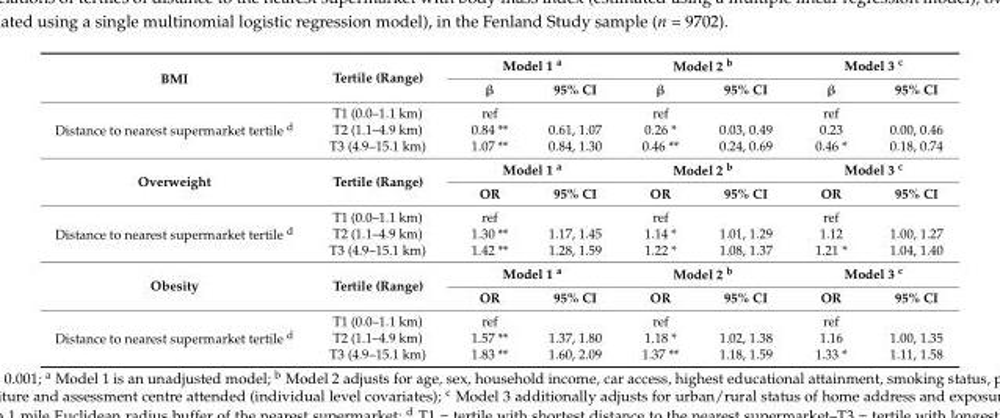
<table><tbody><tr><td rowspan="2">BMI</td><td rowspan="2">Tertile (Range)</td><td colspan="2">Model 1 <sup>a</sup></td><td colspan="2">Model 2 <sup>b</sup></td><td colspan="2">Model 3 <sup>c</sup></td></tr><tr><td>β</td><td>95% CI</td><td>β</td><td>95% CI</td><td>β</td><td>95% CI</td></tr><tr><td rowspan="3">Distance to nearest supermarket tertile <sup>d</sup></td><td>T1 (0.0–1.1 km)</td><td>ref</td><td></td><td>ref</td><td></td><td>ref</td><td></td></tr><tr><td>T2 (1.1–4.9 km)</td><td>0.84 **</td><td>0.61, 1.07</td><td>0.26 *</td><td>0.03, 0.49</td><td>0.23</td><td>0.00, 0.46</td></tr><tr><td>T3 (4.9–15.1 km)</td><td>1.07 **</td><td>0.84, 1.30</td><td>0.46 **</td><td>0.24, 0.69</td><td>0.46 *</td><td>0.18, 0.74</td></tr><tr><td rowspan="2">Overweight</td><td rowspan="2">Tertile (Range)</td><td colspan="2">Model 1 <sup>a</sup></td><td colspan="2">Model 2 <sup>b</sup></td><td colspan="2">Model 3 <sup>c</sup></td></tr><tr><td>OR</td><td>95% CI</td><td>OR</td><td>95% CI</td><td>OR</td><td>95% CI</td></tr><tr><td rowspan="3">Distance to nearest supermarket tertile <sup>d</sup></td><td>T1 (0.0–1.1 km)</td><td>ref</td><td></td><td>ref</td><td></td><td>ref</td><td></td></tr><tr><td>T2 (1.1–4.9 km)</td><td>1.30 **</td><td>1.17, 1.45</td><td>1.14 *</td><td>1.01, 1.29</td><td>1.12</td><td>1.00, 1.27</td></tr><tr><td>T3 (4.9–15.1 km)</td><td>1.42 **</td><td>1.28, 1.59</td><td>1.22 *</td><td>1.08, 1.37</td><td>1.21 *</td><td>1.04, 1.40</td></tr><tr><td rowspan="2">Obesity</td><td rowspan="2">Tertile (Range)</td><td colspan="2">Model 1 <sup>a</sup></td><td colspan="2">Model 2 <sup>b</sup></td><td colspan="2">Model 3 <sup>c</sup></td></tr><tr><td>OR</td><td>95% CI</td><td>OR</td><td>95% CI</td><td>OR</td><td>95% CI</td></tr><tr><td rowspan="3">Distance to nearest supermarket tertile <sup>d</sup></td><td>T1 (0.0–1.1 km)</td><td>ref</td><td></td><td>ref</td><td></td><td>ref</td><td></td></tr><tr><td>T2 (1.1–4.9 km)</td><td>1.57 **</td><td>1.37, 1.80</td><td>1.18 *</td><td>1.02, 1.38</td><td>1.16</td><td>1.00, 1.35</td></tr><tr><td>T3 (4.9–15.1 km)</td><td>1.83 **</td><td>1.60, 2.09</td><td>1.37 **</td><td>1.18, 1.59</td><td>1.33 *</td><td>1.11, 1.58</td></tr></tbody></table>